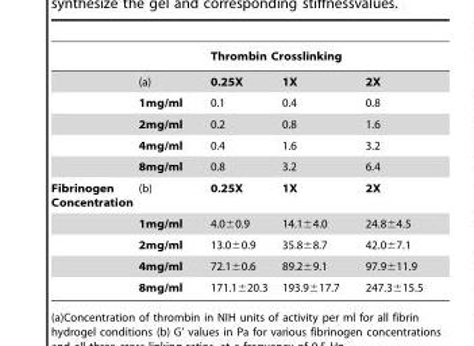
<table><thead><tr><td rowspan="2"></td><td rowspan="2">(a)</td><td colspan="3">Thrombin Crosslinking</td></tr><tr><td>0.25X</td><td>1X</td><td>2X</td></tr></thead><tbody><tr><td></td><td>1mg/ml</td><td>0.1</td><td>0.4</td><td>0.8</td></tr><tr><td></td><td>2mg/ml</td><td>0.2</td><td>0.8</td><td>1.6</td></tr><tr><td></td><td>4mg/ml</td><td>0.4</td><td>1.6</td><td>3.2</td></tr><tr><td></td><td>8mg/ml</td><td>0.8</td><td>3.2</td><td>6.4</td></tr><tr><td rowspan="5">Fibrinogen Concentration</td><td>(b)</td><td>0.25X</td><td>1X</td><td>2X</td></tr><tr><td>1mg/ml</td><td>4.0±0.9</td><td>14.1±4.0</td><td>24.8±4.5</td></tr><tr><td>2mg/ml</td><td>13.0±0.9</td><td>35.8±8.7</td><td>42.0±7.1</td></tr><tr><td>4mg/ml</td><td>72.1±0.6</td><td>89.2±9.1</td><td>97.9±11.9</td></tr><tr><td>8mg/ml</td><td>171.1±20.3</td><td>193.9±17.7</td><td>247.3±15.5</td></tr></tbody></table>